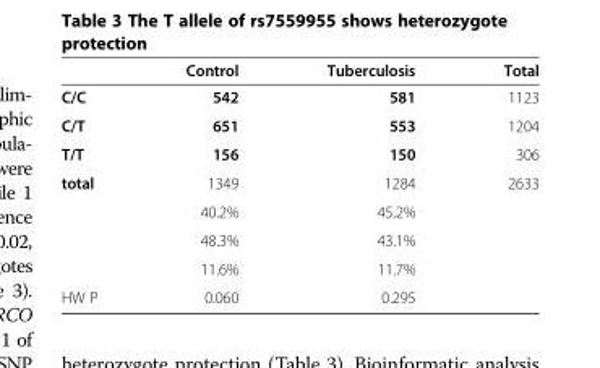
<table><thead><tr><td></td><td>Control</td><td>Tuberculosis</td><td>Total</td></tr></thead><tbody><tr><td>C/C</td><td>542</td><td>581</td><td>1123</td></tr><tr><td>C/T</td><td>651</td><td>553</td><td>1204</td></tr><tr><td>T/T</td><td>156</td><td>150</td><td>306</td></tr><tr><td rowspan="4">total</td><td>1349</td><td>1284</td><td>2633</td></tr><tr><td>40.2%</td><td>45.2%</td><td></td></tr><tr><td>48.3%</td><td>43.1%</td><td></td></tr><tr><td>11.6%</td><td>11.7%</td><td></td></tr><tr><td>HW P</td><td>0.060</td><td>0.295</td><td></td></tr></tbody></table>